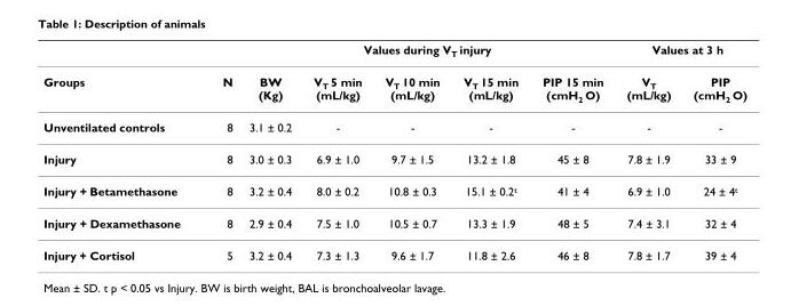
<table><thead><tr><td rowspan="2">Groups</td><td rowspan="2">N</td><td colspan="5">Values during V<sub>T</sub> injury</td><td colspan="2">Values at 3 h</td></tr><tr><td>BW (Kg)</td><td>V<sub>T</sub> 5 min (mL/kg)</td><td>V<sub>T</sub> 10 min (mL/kg)</td><td>V<sub>T</sub> 15 min (mL/kg)</td><td>PIP 15 min (cmH<sub>2</sub> O)</td><td>V<sub>T</sub> (mL/kg)</td><td>PIP (cmH<sub>2</sub> O)</td></tr></thead><tbody><tr><td>Unventilated controls</td><td>8</td><td>3.1 ± 0.2</td><td>-</td><td>-</td><td>-</td><td>-</td><td>-</td><td>-</td></tr><tr><td>Injury</td><td>8</td><td>3.0 ± 0.3</td><td>6.9 ± 1.0</td><td>9.7 ± 1.5</td><td>13.2 ± 1.8</td><td>45 ± 8</td><td>7.8 ± 1.9</td><td>33 ± 9</td></tr><tr><td>Injury + Betamethasone</td><td>8</td><td>3.2 ± 0.4</td><td>8.0 ± 0.2</td><td>10.8 ± 0.3</td><td>15.1 ± 0.2<sup>t</sup></td><td>41 ± 4</td><td>6.9 ± 1.0</td><td>24 ± 4<sup>t</sup></td></tr><tr><td>Injury + Dexamethasone</td><td>8</td><td>2.9 ± 0.4</td><td>7.5 ± 1.0</td><td>10.5 ± 0.7</td><td>13.3 ± 1.9</td><td>48 ± 5</td><td>7.4 ± 3.1</td><td>32 ± 4</td></tr><tr><td>Injury + Cortisol</td><td>5</td><td>3.2 ± 0.4</td><td>7.3 ± 1.3</td><td>9.6 ± 1.7</td><td>11.8 ± 2.6</td><td>46 ± 8</td><td>7.8 ± 1.7</td><td>39 ± 4</td></tr></tbody></table>